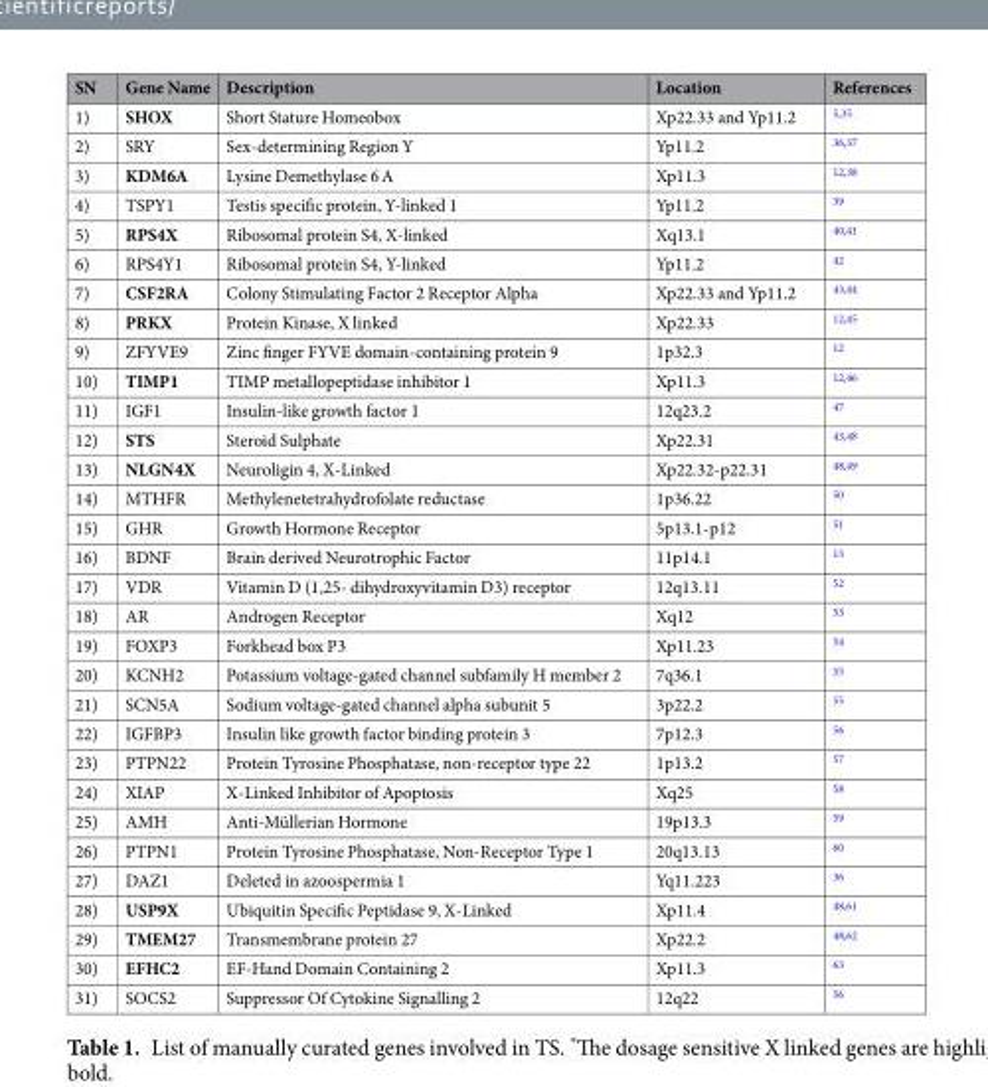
<table><thead><tr><td>SN</td><td>Gene Name</td><td>Description</td><td>Location</td><td>References</td></tr></thead><tbody><tr><td>1)</td><td>SHOX</td><td>Short Stature Homeobox</td><td>Xp22.33 and Yp11.2</td><td><sup>5,35</sup></td></tr><tr><td>2)</td><td>SRY</td><td>Sex-determining Region Y</td><td>Yp11.2</td><td><sup>36,37</sup></td></tr><tr><td>3)</td><td>KDM6A</td><td>Lysine Demethylase 6 A</td><td>Xp11.3</td><td><sup>12,38</sup></td></tr><tr><td>4)</td><td>TSPY1</td><td>Testis specific protein, Y-linked 1</td><td>Yp11.2</td><td><sup>39</sup></td></tr><tr><td>5)</td><td>RPS4X</td><td>Ribosomal protein S4, X-linked</td><td>Xq13.1</td><td><sup>40,41</sup></td></tr><tr><td>6)</td><td>RPS4Y1</td><td>Ribosomal protein S4, Y-linked</td><td>Yp11.2</td><td><sup>42</sup></td></tr><tr><td>7)</td><td>CSF2RA</td><td>Colony Stimulating Factor 2 Receptor Alpha</td><td>Xp22.33 and Yp11.2</td><td><sup>43,44</sup></td></tr><tr><td>8)</td><td>PRKX</td><td>Protein Kinase, X linked</td><td>Xp22.33</td><td><sup>12,45</sup></td></tr><tr><td>9)</td><td>ZFYVE9</td><td>Zinc finger FYVE domain-containing protein 9</td><td>1p32.3</td><td><sup>12</sup></td></tr><tr><td>10)</td><td>TIMP1</td><td>TIMP metallopeptidase inhibitor 1</td><td>Xp11.3</td><td><sup>12,46</sup></td></tr><tr><td>11)</td><td>IGF1</td><td>Insulin-like growth factor 1</td><td>12q23.2</td><td><sup>47</sup></td></tr><tr><td>12)</td><td>STS</td><td>Steroid Sulphate</td><td>Xp22.31</td><td><sup>43,48</sup></td></tr><tr><td>13)</td><td>NLGN4X</td><td>Neuroligin 4, X-Linked</td><td>Xp22.32-p22.31</td><td><sup>48,49</sup></td></tr><tr><td>14)</td><td>MTHFR</td><td>Methylenetetrahydrofolate reductase</td><td>1p36.22</td><td><sup>50</sup></td></tr><tr><td>15)</td><td>GHR</td><td>Growth Hormone Receptor</td><td>5p13.1-p12</td><td><sup>51</sup></td></tr><tr><td>16)</td><td>BDNF</td><td>Brain derived Neurotrophic Factor</td><td>11p14.1</td><td><sup>13</sup></td></tr><tr><td>17)</td><td>VDR</td><td>Vitamin D (1,25- dihydroxyvitamin D3) receptor</td><td>12q13.11</td><td><sup>52</sup></td></tr><tr><td>18)</td><td>AR</td><td>Androgen Receptor</td><td>Xq12</td><td><sup>53</sup></td></tr><tr><td>19)</td><td>FOXP3</td><td>Forkhead box P3</td><td>Xp11.23</td><td><sup>54</sup></td></tr><tr><td>20)</td><td>KCNH2</td><td>Potassium voltage-gated channel subfamily H member 2</td><td>7q36.1</td><td><sup>55</sup></td></tr><tr><td>21)</td><td>SCN5A</td><td>Sodium voltage-gated channel alpha subunit 5</td><td>3p22.2</td><td><sup>55</sup></td></tr><tr><td>22)</td><td>IGFBP3</td><td>Insulin like growth factor binding protein 3</td><td>7p12.3</td><td><sup>56</sup></td></tr><tr><td>23)</td><td>PTPN22</td><td>Protein Tyrosine Phosphatase, non-receptor type 22</td><td>1p13.2</td><td><sup>57</sup></td></tr><tr><td>24)</td><td>XIAP</td><td>X-Linked Inhibitor of Apoptosis</td><td>Xq25</td><td><sup>58</sup></td></tr><tr><td>25)</td><td>AMH</td><td>Anti-Müllerian Hormone</td><td>19p13.3</td><td><sup>59</sup></td></tr><tr><td>26)</td><td>PTPN1</td><td>Protein Tyrosine Phosphatase, Non-Receptor Type 1</td><td>20q13.13</td><td><sup>60</sup></td></tr><tr><td>27)</td><td>DAZ1</td><td>Deleted in azoospermia 1</td><td>Yq11.223</td><td><sup>36</sup></td></tr><tr><td>28)</td><td>USP9X</td><td>Ubiquitin Specific Peptidase 9, X-Linked</td><td>Xp11.4</td><td><sup>48,61</sup></td></tr><tr><td>29)</td><td>TMEM27</td><td>Transmembrane protein 27</td><td>Xp22.2</td><td><sup>48,62</sup></td></tr><tr><td>30)</td><td>EFHC2</td><td>EF-Hand Domain Containing 2</td><td>Xp11.3</td><td><sup>63</sup></td></tr><tr><td>31)</td><td>SOCS2</td><td>Suppressor Of Cytokine Signalling 2</td><td>12q22</td><td><sup>56</sup></td></tr></tbody></table>